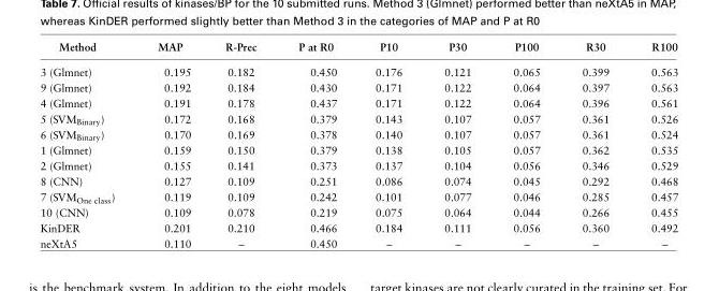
<table><thead><tr><td>Method</td><td>MAP</td><td>R-Prec</td><td>P at R0</td><td>P10</td><td>P30</td><td>P100</td><td>R30</td><td>R100</td></tr></thead><tbody><tr><td>3 (Glmnet)</td><td>0.195</td><td>0.182</td><td>0.450</td><td>0.176</td><td>0.121</td><td>0.065</td><td>0.399</td><td>0.563</td></tr><tr><td>9 (Glmnet)</td><td>0.192</td><td>0.184</td><td>0.430</td><td>0.171</td><td>0.122</td><td>0.064</td><td>0.397</td><td>0.563</td></tr><tr><td>4 (Glmnet)</td><td>0.191</td><td>0.178</td><td>0.437</td><td>0.171</td><td>0.122</td><td>0.064</td><td>0.396</td><td>0.561</td></tr><tr><td>5 (SVM<sub>Binary</sub>)</td><td>0.172</td><td>0.168</td><td>0.379</td><td>0.143</td><td>0.107</td><td>0.057</td><td>0.361</td><td>0.526</td></tr><tr><td>6 (SVM<sub>Binary</sub>)</td><td>0.170</td><td>0.169</td><td>0.378</td><td>0.140</td><td>0.107</td><td>0.057</td><td>0.361</td><td>0.524</td></tr><tr><td>1 (Glmnet)</td><td>0.159</td><td>0.150</td><td>0.379</td><td>0.138</td><td>0.105</td><td>0.057</td><td>0.362</td><td>0.535</td></tr><tr><td>2 (Glmnet)</td><td>0.155</td><td>0.141</td><td>0.373</td><td>0.137</td><td>0.104</td><td>0.056</td><td>0.346</td><td>0.529</td></tr><tr><td>8 (CNN)</td><td>0.127</td><td>0.109</td><td>0.251</td><td>0.086</td><td>0.074</td><td>0.045</td><td>0.292</td><td>0.468</td></tr><tr><td>7 (SVM<sub>One class</sub>)</td><td>0.119</td><td>0.109</td><td>0.242</td><td>0.101</td><td>0.077</td><td>0.046</td><td>0.285</td><td>0.457</td></tr><tr><td>10 (CNN)</td><td>0.109</td><td>0.078</td><td>0.219</td><td>0.075</td><td>0.064</td><td>0.044</td><td>0.266</td><td>0.455</td></tr><tr><td>KinDER</td><td>0.201</td><td>0.210</td><td>0.466</td><td>0.184</td><td>0.111</td><td>0.056</td><td>0.360</td><td>0.492</td></tr><tr><td>neXtA5</td><td>0.110</td><td>–</td><td>0.450</td><td>–</td><td>–</td><td>–</td><td>–</td><td>–</td></tr></tbody></table>